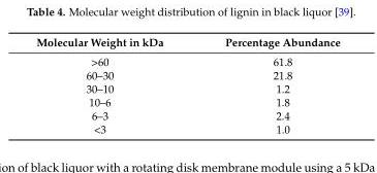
<table><thead><tr><td>Molecular Weight in kDa</td><td>Percentage Abundance</td></tr></thead><tbody><tr><td>&gt;60</td><td>61.8</td></tr><tr><td>60–30</td><td>21.8</td></tr><tr><td>30–10</td><td>1.2</td></tr><tr><td>10–6</td><td>1.8</td></tr><tr><td>6–3</td><td>2.4</td></tr><tr><td>&lt;3</td><td>1.0</td></tr></tbody></table>